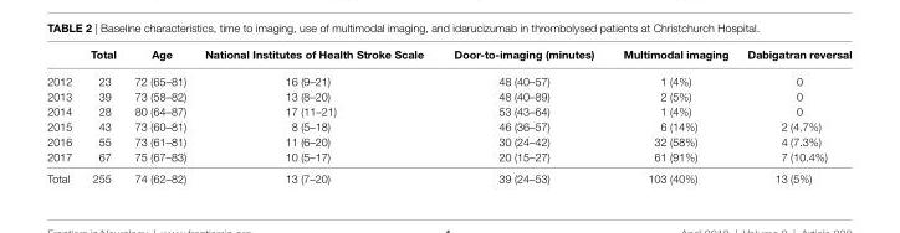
<table><thead><tr><td></td><td>Total</td><td>age</td><td>national institutes of health stroke scale</td><td>Door-to-imaging (minutes)</td><td>Multimodal imaging</td><td>Dabigatran reversal</td></tr></thead><tbody><tr><td>2012</td><td>23</td><td>72 (65–81)</td><td>16 (9–21)</td><td>48 (40–57)</td><td>1 (4%)</td><td>0</td></tr><tr><td>2013</td><td>39</td><td>73 (58–82)</td><td>13 (8–20)</td><td>48 (40–89)</td><td>2 (5%)</td><td>0</td></tr><tr><td>2014</td><td>28</td><td>80 (64–87)</td><td>17 (11–21)</td><td>53 (43–64)</td><td>1 (4%)</td><td>0</td></tr><tr><td>2015</td><td>43</td><td>73 (60–81)</td><td>8 (5–18)</td><td>46 (36–57)</td><td>6 (14%)</td><td>2 (4.7%)</td></tr><tr><td>2016</td><td>55</td><td>73 (61–81)</td><td>11 (6–20)</td><td>30 (24–42)</td><td>32 (58%)</td><td>4 (7.3%)</td></tr><tr><td>2017</td><td>67</td><td>75 (67–83)</td><td>10 (5–17)</td><td>20 (15–27)</td><td>61 (91%)</td><td>7 (10.4%)</td></tr><tr><td>Total</td><td>255</td><td>74 (62–82)</td><td>13 (7–20)</td><td>39 (24–53)</td><td>103 (40%)</td><td>13 (5%)</td></tr></tbody></table>